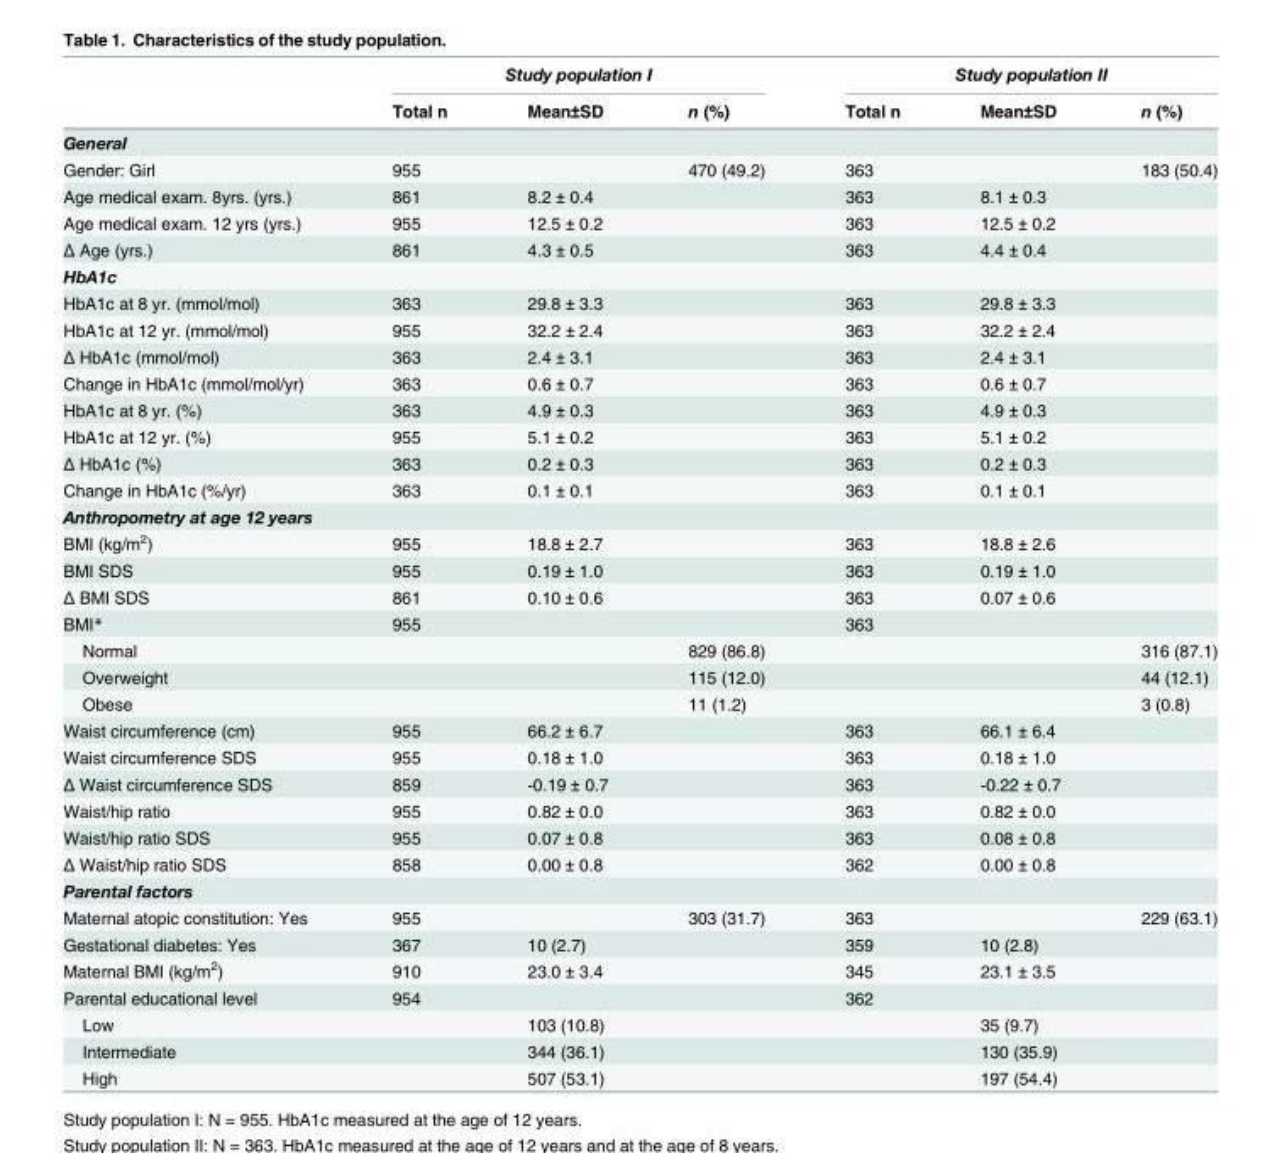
<table><thead><tr><td rowspan="2"></td><td colspan="3">Study population I</td><td colspan="3">Study population II</td></tr><tr><td>Total n</td><td>Mean±SD</td><td>n (%)</td><td>Total n</td><td>Mean±SD</td><td>n (%)</td></tr></thead><tbody><tr><td colspan="7">General</td></tr><tr><td>Gender: Girl</td><td>955</td><td></td><td>470 (49.2)</td><td>363</td><td></td><td>183 (50.4)</td></tr><tr><td>Age medical exam. 8yrs. (yrs.)</td><td>861</td><td>8.2 ± 0.4</td><td></td><td>363</td><td>8.1 ± 0.3</td><td></td></tr><tr><td>Age medical exam. 12 yrs (yrs.)</td><td>955</td><td>12.5 ± 0.2</td><td></td><td>363</td><td>12.5 ± 0.2</td><td></td></tr><tr><td>Δ Age (yrs.)</td><td>861</td><td>4.3 ± 0.5</td><td></td><td>363</td><td>4.4 ± 0.4</td><td></td></tr><tr><td colspan="7">HbA1c</td></tr><tr><td>HbA1c at 8 yr. (mmol/mol)</td><td>363</td><td>29.8 ± 3.3</td><td></td><td>363</td><td>29.8 ± 3.3</td><td></td></tr><tr><td>HbA1c at 12 yr. (mmol/mol)</td><td>955</td><td>32.2 ± 2.4</td><td></td><td>363</td><td>32.2 ± 2.4</td><td></td></tr><tr><td>Δ HbA1c (mmol/mol)</td><td>363</td><td>2.4 ± 3.1</td><td></td><td>363</td><td>2.4 ± 3.1</td><td></td></tr><tr><td>Change in HbA1c (mmol/mol/yr)</td><td>363</td><td>0.6 ± 0.7</td><td></td><td>363</td><td>0.6 ± 0.7</td><td></td></tr><tr><td>HbA1c at 8 yr. (%)</td><td>363</td><td>4.9 ± 0.3</td><td></td><td>363</td><td>4.9 ± 0.3</td><td></td></tr><tr><td>HbA1c at 12 yr. (%)</td><td>955</td><td>5.1 ± 0.2</td><td></td><td>363</td><td>5.1 ± 0.2</td><td></td></tr><tr><td>Δ HbA1c (%)</td><td>363</td><td>0.2 ± 0.3</td><td></td><td>363</td><td>0.2 ± 0.3</td><td></td></tr><tr><td>Change in HbA1c (%/yr)</td><td>363</td><td>0.1 ± 0.1</td><td></td><td>363</td><td>0.1 ± 0.1</td><td></td></tr><tr><td colspan="7">Anthropometry at age 12 years</td></tr><tr><td>BMI (kg/m<sup>2</sup>)</td><td>955</td><td>18.8 ± 2.7</td><td></td><td>363</td><td>18.8 ± 2.6</td><td></td></tr><tr><td>BMI SDS</td><td>955</td><td>0.19 ± 1.0</td><td></td><td>363</td><td>0.19 ± 1.0</td><td></td></tr><tr><td>Δ BMI SDS</td><td>861</td><td>0.10 ± 0.6</td><td></td><td>363</td><td>0.07 ± 0.6</td><td></td></tr><tr><td>BMI*</td><td>955</td><td></td><td></td><td>363</td><td></td><td></td></tr><tr><td>Normal</td><td></td><td></td><td>829 (86.8)</td><td></td><td></td><td>316 (87.1)</td></tr><tr><td>Overweight</td><td></td><td></td><td>115 (12.0)</td><td></td><td></td><td>44 (12.1)</td></tr><tr><td>Obese</td><td></td><td></td><td>11 (1.2)</td><td></td><td></td><td>3 (0.8)</td></tr><tr><td>Waist circumference (cm)</td><td>955</td><td>66.2 ± 6.7</td><td></td><td>363</td><td>66.1 ± 6.4</td><td></td></tr><tr><td>Waist circumference SDS</td><td>955</td><td>0.18 ± 1.0</td><td></td><td>363</td><td>0.18 ± 1.0</td><td></td></tr><tr><td>Δ Waist circumference SDS</td><td>859</td><td>-0.19 ± 0.7</td><td></td><td>363</td><td>-0.22 ± 0.7</td><td></td></tr><tr><td>Waist/hip ratio</td><td>955</td><td>0.82 ± 0.0</td><td></td><td>363</td><td>0.82 ± 0.0</td><td></td></tr><tr><td>Waist/hip ratio SDS</td><td>955</td><td>0.07 ± 0.8</td><td></td><td>363</td><td>0.08 ± 0.8</td><td></td></tr><tr><td>Δ Waist/hip ratio SDS</td><td>858</td><td>0.00 ± 0.8</td><td></td><td>362</td><td>0.00 ± 0.8</td><td></td></tr><tr><td colspan="7">Parental factors</td></tr><tr><td>Maternal atopic constitution: Yes</td><td>955</td><td></td><td>303 (31.7)</td><td>363</td><td></td><td>229 (63.1)</td></tr><tr><td>Gestational diabetes: Yes</td><td>367</td><td>10 (2.7)</td><td></td><td>359</td><td>10 (2.8)</td><td></td></tr><tr><td>Maternal BMI (kg/m<sup>2</sup>)</td><td>910</td><td>23.0 ± 3.4</td><td></td><td>345</td><td>23.1 ± 3.5</td><td></td></tr><tr><td>Parental educational level</td><td>954</td><td></td><td></td><td>362</td><td></td><td></td></tr><tr><td>Low</td><td></td><td>103 (10.8)</td><td></td><td></td><td>35 (9.7)</td><td></td></tr><tr><td>Intermediate</td><td></td><td>344 (36.1)</td><td></td><td></td><td>130 (35.9)</td><td></td></tr><tr><td>High</td><td></td><td>507 (53.1)</td><td></td><td></td><td>197 (54.4)</td><td></td></tr></tbody></table>